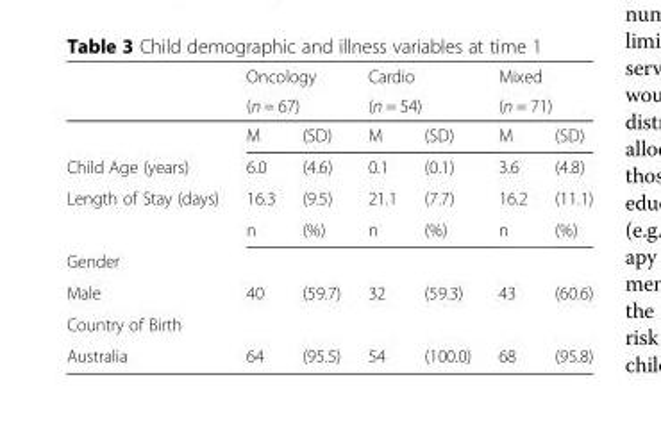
<table><thead><tr><td rowspan="3"></td><td rowspan="2" colspan="2">Oncology (n = 67)</td><td rowspan="2" colspan="2">Cardio (n = 54)</td><td rowspan="2" colspan="2">Mixed (n = 71)</td></tr><tr></tr><tr><td>M</td><td>(SD)</td><td>M</td><td>(SD)</td><td>M</td><td>(SD)</td></tr></thead><tbody><tr><td>Child Age (years)</td><td>6.0</td><td>(4.6)</td><td>0.1</td><td>(0.1)</td><td>3.6</td><td>(4.8)</td></tr><tr><td rowspan="2">Length of Stay (days)</td><td>16.3</td><td>(9.5)</td><td>21.1</td><td>(7.7)</td><td>16.2</td><td>(11.1)</td></tr><tr><td>n</td><td>(%)</td><td>n</td><td>(%)</td><td>n</td><td>(%)</td></tr><tr><td colspan="7">Gender</td></tr><tr><td>Male</td><td>40</td><td>(59.7)</td><td>32</td><td>(59.3)</td><td>43</td><td>(60.6)</td></tr><tr><td colspan="7">Country of Birth</td></tr><tr><td>Australia</td><td>64</td><td>(95.5)</td><td>54</td><td>(100.0)</td><td>68</td><td>(95.8)</td></tr></tbody></table>